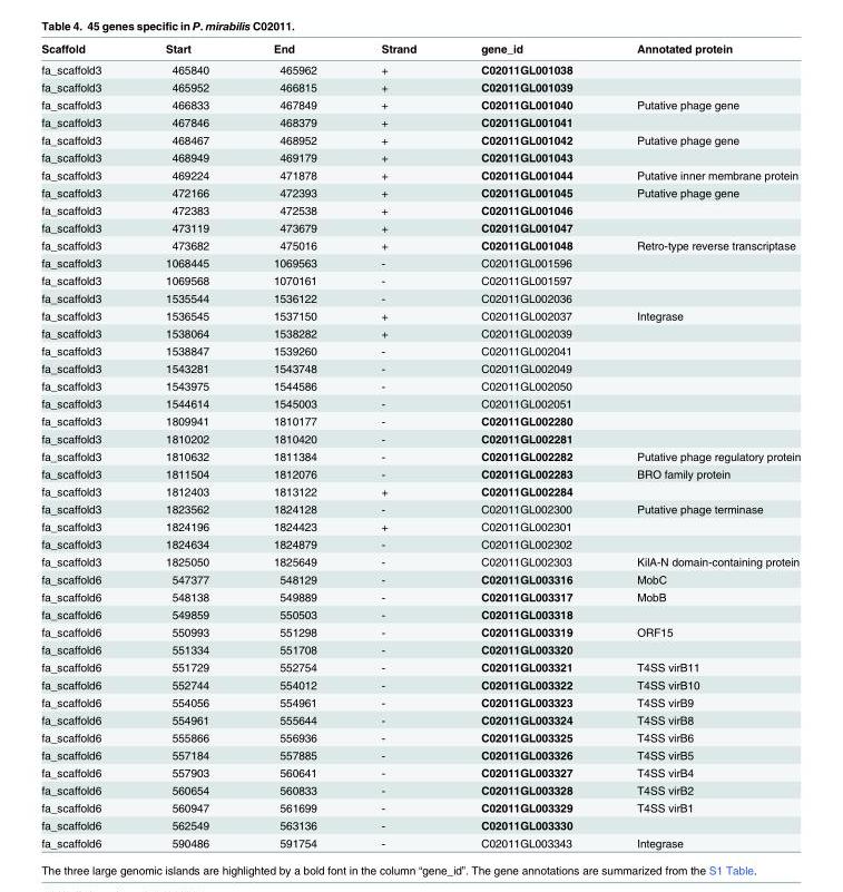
<table><thead><tr><td>Scaffold</td><td>Start</td><td>End</td><td>Strand</td><td>gene_id</td><td>Annotated protein</td></tr></thead><tbody><tr><td>fa_scaffold3</td><td>465840</td><td>465962</td><td>+</td><td>C02011GL001038</td><td></td></tr><tr><td>fa_scaffold3</td><td>465952</td><td>466815</td><td>+</td><td>C02011GL001039</td><td></td></tr><tr><td>fa_scaffold3</td><td>466833</td><td>467849</td><td>+</td><td>C02011GL001040</td><td>Putative phage gene</td></tr><tr><td>fa_scaffold3</td><td>467846</td><td>468379</td><td>+</td><td>C02011GL001041</td><td></td></tr><tr><td>fa_scaffold3</td><td>468467</td><td>468952</td><td>+</td><td>C02011GL001042</td><td>Putative phage gene</td></tr><tr><td>fa_scaffold3</td><td>468949</td><td>469179</td><td>+</td><td>C02011GL001043</td><td></td></tr><tr><td>fa_scaffold3</td><td>469224</td><td>471878</td><td>+</td><td>C02011GL001044</td><td>Putative inner membrane protein</td></tr><tr><td>fa_scaffold3</td><td>472166</td><td>472393</td><td>+</td><td>C02011GL001045</td><td>Putative phage gene</td></tr><tr><td>fa_scaffold3</td><td>472383</td><td>472538</td><td>+</td><td>C02011GL001046</td><td></td></tr><tr><td>fa_scaffold3</td><td>473119</td><td>473679</td><td>+</td><td>C02011GL001047</td><td></td></tr><tr><td>fa_scaffold3</td><td>473682</td><td>475016</td><td>+</td><td>C02011GL001048</td><td>Retro-type reverse transcriptase</td></tr><tr><td>fa_scaffold3</td><td>1068445</td><td>1069563</td><td>-</td><td>C02011GL001596</td><td></td></tr><tr><td>fa_scaffold3</td><td>1069568</td><td>1070161</td><td>-</td><td>C02011GL001597</td><td></td></tr><tr><td>fa_scaffold3</td><td>1535544</td><td>1536122</td><td>-</td><td>C02011GL002036</td><td></td></tr><tr><td>fa_scaffold3</td><td>1536545</td><td>1537150</td><td>+</td><td>C02011GL002037</td><td>Integrase</td></tr><tr><td>fa_scaffold3</td><td>1538064</td><td>1538282</td><td>+</td><td>C02011GL002039</td><td></td></tr><tr><td>fa_scaffold3</td><td>1538847</td><td>1539260</td><td>-</td><td>C02011GL002041</td><td></td></tr><tr><td>fa_scaffold3</td><td>1543281</td><td>1543748</td><td>-</td><td>C02011GL002049</td><td></td></tr><tr><td>fa_scaffold3</td><td>1543975</td><td>1544586</td><td>-</td><td>C02011GL002050</td><td></td></tr><tr><td>fa_scaffold3</td><td>1544614</td><td>1545003</td><td>-</td><td>C02011GL002051</td><td></td></tr><tr><td>fa_scaffold3</td><td>1809941</td><td>1810177</td><td>-</td><td>C02011GL002280</td><td></td></tr><tr><td>fa_scaffold3</td><td>1810202</td><td>1810420</td><td>-</td><td>C02011GL002281</td><td></td></tr><tr><td>fa_scaffold3</td><td>1810632</td><td>1811384</td><td>-</td><td>C02011GL002282</td><td>Putative phage regulatory protein</td></tr><tr><td>fa_scaffold3</td><td>1811504</td><td>1812076</td><td>-</td><td>C02011GL002283</td><td>BRO family protein</td></tr><tr><td>fa_scaffold3</td><td>1812403</td><td>1813122</td><td>+</td><td>C02011GL002284</td><td></td></tr><tr><td>fa_scaffold3</td><td>1823562</td><td>1824128</td><td>-</td><td>C02011GL002300</td><td>Putative phage terminase</td></tr><tr><td>fa_scaffold3</td><td>1824196</td><td>1824423</td><td>+</td><td>C02011GL002301</td><td></td></tr><tr><td>fa_scaffold3</td><td>1824634</td><td>1824879</td><td>-</td><td>C02011GL002302</td><td></td></tr><tr><td>fa_scaffold3</td><td>1825050</td><td>1825649</td><td>-</td><td>C02011GL002303</td><td>KilA-N domain-containing protein</td></tr><tr><td>fa_scaffold6</td><td>547377</td><td>548129</td><td>-</td><td>C02011GL003316</td><td>MobC</td></tr><tr><td>fa_scaffold6</td><td>548138</td><td>549889</td><td>-</td><td>C02011GL003317</td><td>MobB</td></tr><tr><td>fa_scaffold6</td><td>549859</td><td>550503</td><td>-</td><td>C02011GL003318</td><td></td></tr><tr><td>fa_scaffold6</td><td>550993</td><td>551298</td><td>-</td><td>C02011GL003319</td><td>ORF15</td></tr><tr><td>fa_scaffold6</td><td>551334</td><td>551708</td><td>-</td><td>C02011GL003320</td><td></td></tr><tr><td>fa_scaffold6</td><td>551729</td><td>552754</td><td>-</td><td>C02011GL003321</td><td>T4SS virB11</td></tr><tr><td>fa_scaffold6</td><td>552744</td><td>554012</td><td>-</td><td>C02011GL003322</td><td>T4SS virB10</td></tr><tr><td>fa_scaffold6</td><td>554056</td><td>554961</td><td>-</td><td>C02011GL003323</td><td>T4SS virB9</td></tr><tr><td>fa_scaffold6</td><td>554961</td><td>555644</td><td>-</td><td>C02011GL003324</td><td>T4SS virB8</td></tr><tr><td>fa_scaffold6</td><td>555866</td><td>556936</td><td>-</td><td>C02011GL003325</td><td>T4SS virB6</td></tr><tr><td>fa_scaffold6</td><td>557184</td><td>557885</td><td>-</td><td>C02011GL003326</td><td>T4SS virB5</td></tr><tr><td>fa_scaffold6</td><td>557903</td><td>560641</td><td>-</td><td>C02011GL003327</td><td>T4SS virB4</td></tr><tr><td>fa_scaffold6</td><td>560654</td><td>560833</td><td>-</td><td>C02011GL003328</td><td>T4SS virB2</td></tr><tr><td>fa_scaffold6</td><td>560947</td><td>561699</td><td>-</td><td>C02011GL003329</td><td>T4SS virB1</td></tr><tr><td>fa_scaffold6</td><td>562549</td><td>563136</td><td>-</td><td>C02011GL003330</td><td></td></tr><tr><td>fa_scaffold6</td><td>590486</td><td>591754</td><td>-</td><td>C02011GL003343</td><td>Integrase</td></tr></tbody></table>